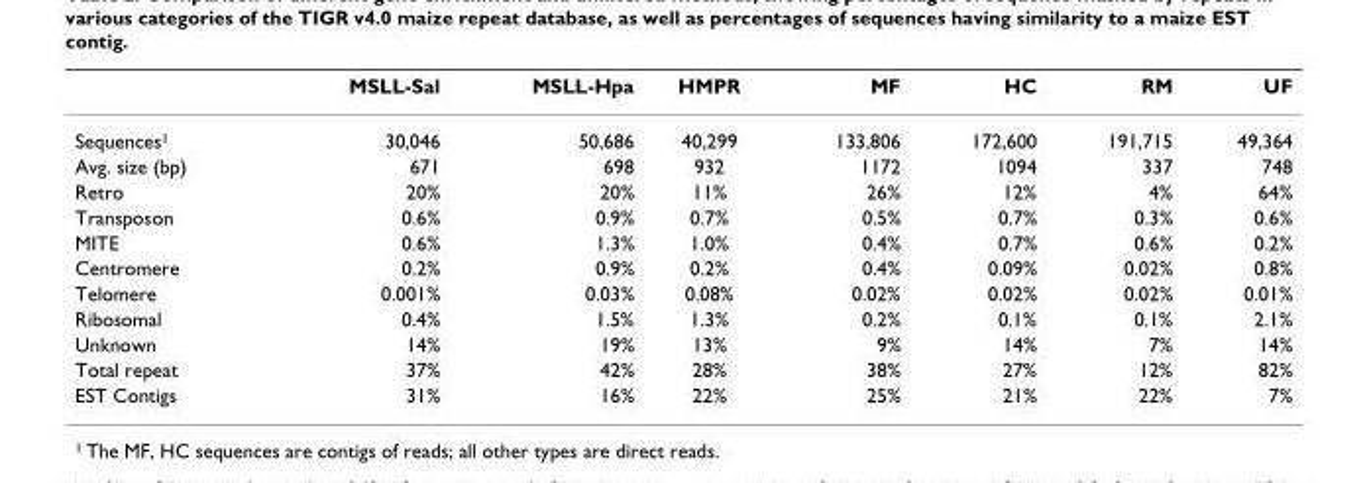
<table><thead><tr><td></td><td>MSLL-Sal</td><td>MSLL-Hpa</td><td>HMPR</td><td>MF</td><td>HC</td><td>RM</td><td>UF</td></tr></thead><tbody><tr><td>Sequences<sup>1</sup></td><td>30,046</td><td>50,686</td><td>40,299</td><td>133,806</td><td>172,600</td><td>191,715</td><td>49,364</td></tr><tr><td>Avg. size (bp)</td><td>671</td><td>698</td><td>932</td><td>1172</td><td>1094</td><td>337</td><td>748</td></tr><tr><td>Retro</td><td>20%</td><td>20%</td><td>11%</td><td>26%</td><td>12%</td><td>4%</td><td>64%</td></tr><tr><td>Transposon</td><td>0.6%</td><td>0.9%</td><td>0.7%</td><td>0.5%</td><td>0.7%</td><td>0.3%</td><td>0.6%</td></tr><tr><td>MITE</td><td>0.6%</td><td>1.3%</td><td>1.0%</td><td>0.4%</td><td>0.7%</td><td>0.6%</td><td>0.2%</td></tr><tr><td>Centromere</td><td>0.2%</td><td>0.9%</td><td>0.2%</td><td>0.4%</td><td>0.09%</td><td>0.02%</td><td>0.8%</td></tr><tr><td>Telomere</td><td>0.001%</td><td>0.03%</td><td>0.08%</td><td>0.02%</td><td>0.02%</td><td>0.02%</td><td>0.01%</td></tr><tr><td>Ribosomal</td><td>0.4%</td><td>1.5%</td><td>1.3%</td><td>0.2%</td><td>0.1%</td><td>0.1%</td><td>2.1%</td></tr><tr><td>Unknown</td><td>14%</td><td>19%</td><td>13%</td><td>9%</td><td>14%</td><td>7%</td><td>14%</td></tr><tr><td>Total repeat</td><td>37%</td><td>42%</td><td>28%</td><td>38%</td><td>27%</td><td>12%</td><td>82%</td></tr><tr><td>EST Contigs</td><td>31%</td><td>16%</td><td>22%</td><td>25%</td><td>21%</td><td>22%</td><td>7%</td></tr></tbody></table>